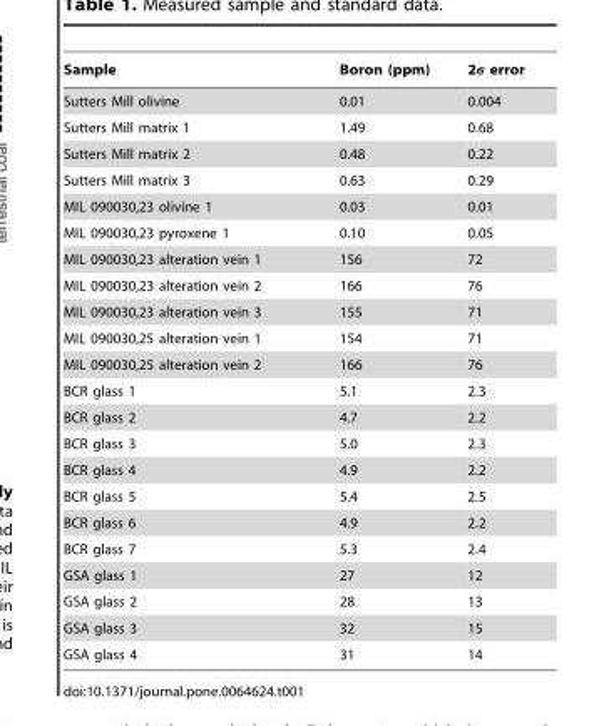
<table><thead><tr><td>Sample</td><td>Boron (ppm)</td><td>2σ error</td></tr></thead><tbody><tr><td>Sutters Mill olivine</td><td>0.01</td><td>0.004</td></tr><tr><td>Sutters Mill matrix 1</td><td>1.49</td><td>0.68</td></tr><tr><td>Sutters Mill matrix 2</td><td>0.48</td><td>0.22</td></tr><tr><td>Sutters Mill matrix 3</td><td>0.63</td><td>0.29</td></tr><tr><td>MIL 090030,23 olivine 1</td><td>0.03</td><td>0.01</td></tr><tr><td>MIL 090030,23 pyroxene 1</td><td>0.10</td><td>0.05</td></tr><tr><td>MIL 090030,23 alteration vein 1</td><td>156</td><td>72</td></tr><tr><td>MIL 090030,23 alteration vein 2</td><td>166</td><td>76</td></tr><tr><td>MIL 090030,23 alteration vein 3</td><td>155</td><td>71</td></tr><tr><td>MIL 090030,25 alteration vein 1</td><td>154</td><td>71</td></tr><tr><td>MIL 090030,25 alteration vein 2</td><td>166</td><td>76</td></tr><tr><td>BCR glass 1</td><td>5.1</td><td>2.3</td></tr><tr><td>BCR glass 2</td><td>4.7</td><td>2.2</td></tr><tr><td>BCR glass 3</td><td>5.0</td><td>2.3</td></tr><tr><td>BCR glass 4</td><td>4.9</td><td>2.2</td></tr><tr><td>BCR glass 5</td><td>5.4</td><td>2.5</td></tr><tr><td>BCR glass 6</td><td>4.9</td><td>2.2</td></tr><tr><td>BCR glass 7</td><td>5.3</td><td>2.4</td></tr><tr><td>GSA glass 1</td><td>27</td><td>12</td></tr><tr><td>GSA glass 2</td><td>28</td><td>13</td></tr><tr><td>GSA glass 3</td><td>32</td><td>15</td></tr><tr><td>GSA glass 4</td><td>31</td><td>14</td></tr></tbody></table>